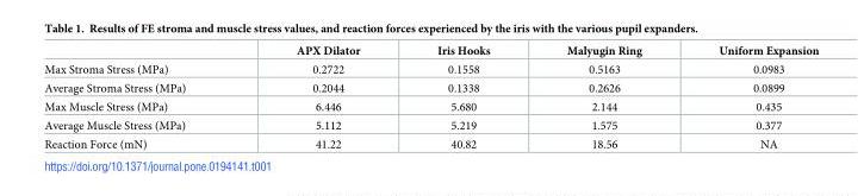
<table><thead><tr><td></td><td>APX Dilator</td><td>Iris Hooks</td><td>Malyugin Ring</td><td>Uniform Expansion</td></tr></thead><tbody><tr><td>Max Stroma Stress (MPa)</td><td>0.2722</td><td>0.1558</td><td>0.5163</td><td>0.0983</td></tr><tr><td>Average Stroma Stress (MPa)</td><td>0.2044</td><td>0.1338</td><td>0.2626</td><td>0.0899</td></tr><tr><td>Max Muscle Stress (MPa)</td><td>6.446</td><td>5.680</td><td>2.144</td><td>0.435</td></tr><tr><td>Average Muscle Stress (MPa)</td><td>5.112</td><td>5.219</td><td>1.575</td><td>0.377</td></tr><tr><td>Reaction Force (mN)</td><td>41.22</td><td>40.82</td><td>18.56</td><td>NA</td></tr></tbody></table>